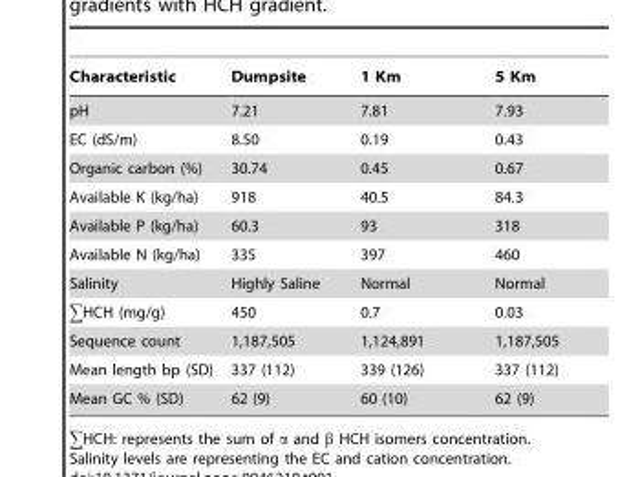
<table><thead><tr><td>Characteristic</td><td>Dumpsite</td><td>1 Km</td><td>5 Km</td></tr></thead><tbody><tr><td>pH</td><td>7.21</td><td>7.81</td><td>7.93</td></tr><tr><td>EC (dS/m)</td><td>8.50</td><td>0.19</td><td>0.43</td></tr><tr><td>Organic carbon (%)</td><td>30.74</td><td>0.45</td><td>0.67</td></tr><tr><td>Available K (kg/ha)</td><td>918</td><td>40.5</td><td>84.3</td></tr><tr><td>Available P (kg/ha)</td><td>60.3</td><td>93</td><td>318</td></tr><tr><td>Available N (kg/ha)</td><td>335</td><td>397</td><td>460</td></tr><tr><td>Salinity</td><td>Highly Saline</td><td>Normal</td><td>Normal</td></tr><tr><td>∑HCH (mg/g)</td><td>450</td><td>0.7</td><td>0.03</td></tr><tr><td>Sequence count</td><td>1,187,505</td><td>1,124,891</td><td>1,187,505</td></tr><tr><td>Mean length bp (SD)</td><td>337 (112)</td><td>339 (126)</td><td>337 (112)</td></tr><tr><td>Mean GC % (SD)</td><td>62 (9)</td><td>60 (10)</td><td>62 (9)</td></tr></tbody></table>